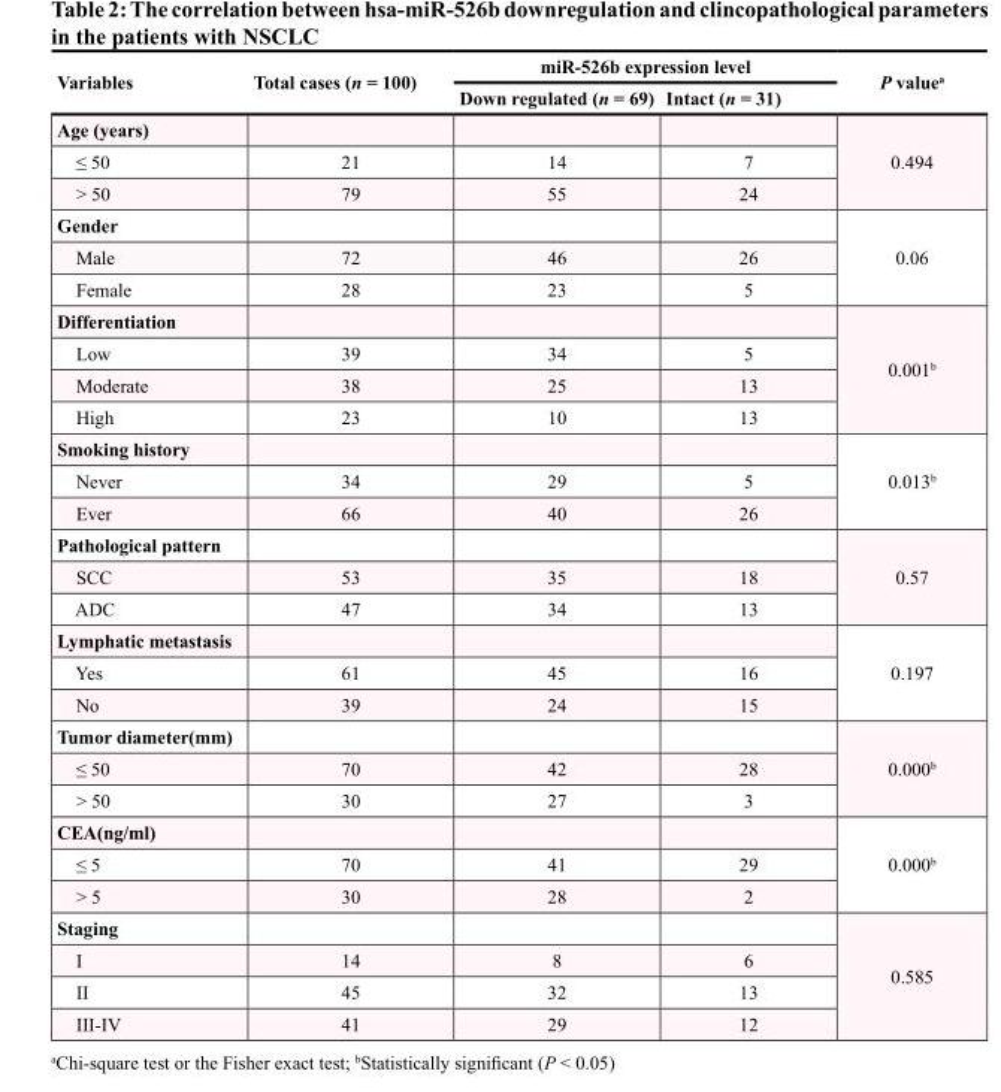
<table><thead><tr><td rowspan="2">Variables</td><td rowspan="2">Total cases (n = 100)</td><td colspan="2">miR-526b expression level</td><td rowspan="2">P value<sup>a</sup></td></tr><tr><td>Down regulated (n = 69)</td><td>Intact (n = 31)</td></tr></thead><tbody><tr><td colspan="4">Age (years)</td><td rowspan="3">0.494</td></tr><tr><td>≤ 50</td><td>21</td><td>14</td><td>7</td></tr><tr><td>&gt; 50</td><td>79</td><td>55</td><td>24</td></tr><tr><td colspan="4">Gender</td><td rowspan="3">0.06</td></tr><tr><td>Male</td><td>72</td><td>46</td><td>26</td></tr><tr><td>Female</td><td>28</td><td>23</td><td>5</td></tr><tr><td colspan="4">Differentiation</td><td rowspan="4">0.001<sup>b</sup></td></tr><tr><td>Low</td><td>39</td><td>34</td><td>5</td></tr><tr><td>Moderate</td><td>38</td><td>25</td><td>13</td></tr><tr><td>High</td><td>23</td><td>10</td><td>13</td></tr><tr><td colspan="4">Smoking history</td><td rowspan="3">0.013<sup>b</sup></td></tr><tr><td>Never</td><td>34</td><td>29</td><td>5</td></tr><tr><td>Ever</td><td>66</td><td>40</td><td>26</td></tr><tr><td colspan="4">Pathological pattern</td><td rowspan="3">0.57</td></tr><tr><td>SCC</td><td>53</td><td>35</td><td>18</td></tr><tr><td>ADC</td><td>47</td><td>34</td><td>13</td></tr><tr><td colspan="4">Lymphatic metastasis</td><td rowspan="3">0.197</td></tr><tr><td>Yes</td><td>61</td><td>45</td><td>16</td></tr><tr><td>No</td><td>39</td><td>24</td><td>15</td></tr><tr><td colspan="4">Tumor diameter(mm)</td><td rowspan="3">0.000<sup>b</sup></td></tr><tr><td>≤ 50</td><td>70</td><td>42</td><td>28</td></tr><tr><td>&gt; 50</td><td>30</td><td>27</td><td>3</td></tr><tr><td colspan="4">CEA(ng/ml)</td><td rowspan="3">0.000<sup>b</sup></td></tr><tr><td>≤ 5</td><td>70</td><td>41</td><td>29</td></tr><tr><td>&gt; 5</td><td>30</td><td>28</td><td>2</td></tr><tr><td colspan="4">Staging</td><td rowspan="4">0.585</td></tr><tr><td>I</td><td>14</td><td>8</td><td>6</td></tr><tr><td>II</td><td>45</td><td>32</td><td>13</td></tr><tr><td>III-IV</td><td>41</td><td>29</td><td>12</td></tr></tbody></table>